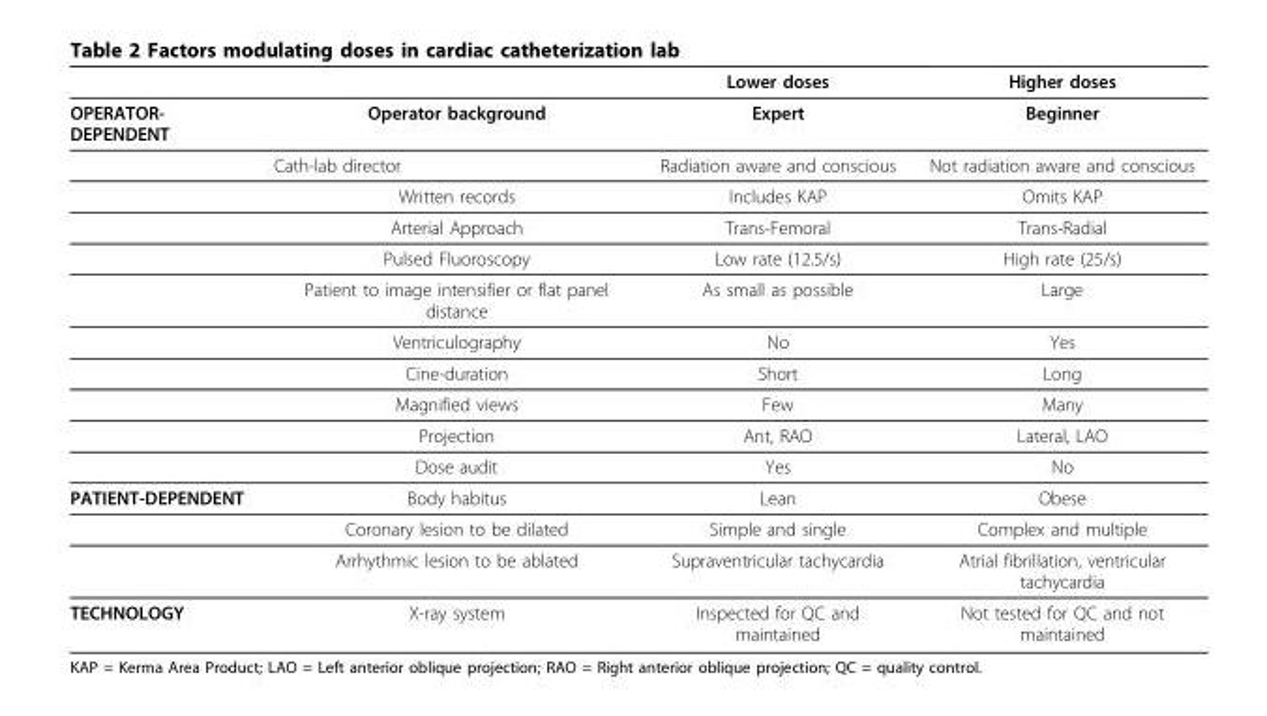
<table><thead><tr><td></td><td></td><td>Lower doses</td><td>Higher doses</td></tr></thead><tbody><tr><td rowspan="11">OPERATOR- DEPENDENT</td><td>Operator background</td><td>Expert</td><td>Beginner</td></tr><tr><td>Cath-lab director</td><td>Radiation aware and conscious</td><td>Not radiation aware and conscious</td></tr><tr><td>Written records</td><td>Includes KAP</td><td>Omits KAP</td></tr><tr><td>Arterial Approach</td><td>Trans-Femoral</td><td>Trans-Radial</td></tr><tr><td>Pulsed Fluoroscopy</td><td>Low rate (12.5/s)</td><td>High rate (25/s)</td></tr><tr><td>Patient to image intensifier or flat panel distance</td><td>As small as possible</td><td>Large</td></tr><tr><td>Ventriculography</td><td>No</td><td>Yes</td></tr><tr><td>Cine-duration</td><td>Short</td><td>Long</td></tr><tr><td>Magnified views</td><td>Few</td><td>Many</td></tr><tr><td>Projection</td><td>Ant, RAO</td><td>Lateral, LAO</td></tr><tr><td>Dose audit</td><td>Yes</td><td>No</td></tr><tr><td rowspan="3">PATIENT-DEPENDENT</td><td>Body habitus</td><td>Lean</td><td>Obese</td></tr><tr><td>Coronary lesion to be dilated</td><td>Simple and single</td><td>Complex and multiple</td></tr><tr><td>Arrhythmic lesion to be ablated</td><td>Supraventricular tachycardia</td><td>Atrial fibrillation, ventricular tachycardia</td></tr><tr><td>TECHNOLOGY</td><td>X-ray system</td><td>Inspected for QC and maintained</td><td>Not tested for QC and not maintained</td></tr></tbody></table>